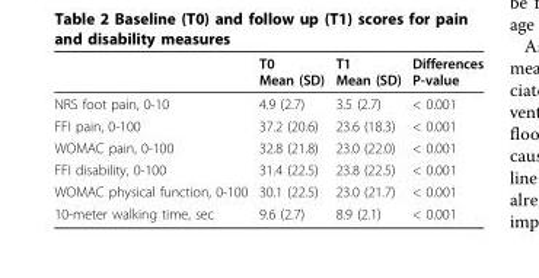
<table><thead><tr><td></td><td>T0 Mean (SD)</td><td>T1 Mean (SD)</td><td>Differences P-value</td></tr></thead><tbody><tr><td>NRS foot pain, 0-10</td><td>4.9 (2.7)</td><td>3.5 (2.7)</td><td>&lt; 0.001</td></tr><tr><td>FFI pain, 0-100</td><td>37.2 (20.6)</td><td>23.6 (18.3)</td><td>&lt; 0.001</td></tr><tr><td>WOMAC pain, 0-100</td><td>32.8 (21.8)</td><td>23.0 (22.0)</td><td>&lt; 0.001</td></tr><tr><td>FFI disability, 0-100</td><td>31.4 (22.5)</td><td>23.8 (22.5)</td><td>&lt; 0.001</td></tr><tr><td>WOMAC physical function, 0-100</td><td>30.1 (22.5)</td><td>23.0 (21.7)</td><td>&lt; 0.001</td></tr><tr><td>10-meter walking time, sec</td><td>9.6 (2.7)</td><td>8.9 (2.1)</td><td>&lt; 0.001</td></tr></tbody></table>